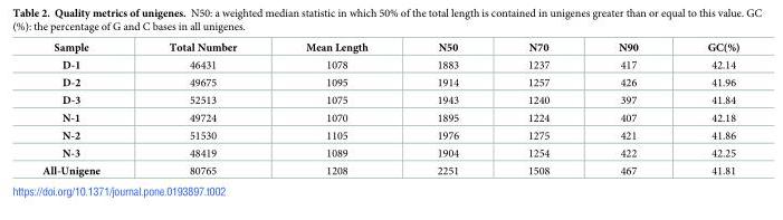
<table><thead><tr><td>Sample</td><td>Total Number</td><td>Mean Length</td><td>N50</td><td>N70</td><td>N90</td><td>GC(%)</td></tr></thead><tbody><tr><td>D-1</td><td>46431</td><td>1078</td><td>1883</td><td>1237</td><td>417</td><td>42.14</td></tr><tr><td>D-2</td><td>49675</td><td>1095</td><td>1914</td><td>1257</td><td>426</td><td>41.96</td></tr><tr><td>D-3</td><td>52513</td><td>1075</td><td>1943</td><td>1240</td><td>397</td><td>41.84</td></tr><tr><td>N-1</td><td>49724</td><td>1070</td><td>1895</td><td>1224</td><td>407</td><td>42.18</td></tr><tr><td>N-2</td><td>51530</td><td>1105</td><td>1976</td><td>1275</td><td>421</td><td>41.86</td></tr><tr><td>N-3</td><td>48419</td><td>1089</td><td>1904</td><td>1254</td><td>422</td><td>42.25</td></tr><tr><td>All-Unigene</td><td>80765</td><td>1208</td><td>2251</td><td>1508</td><td>467</td><td>41.81</td></tr></tbody></table>